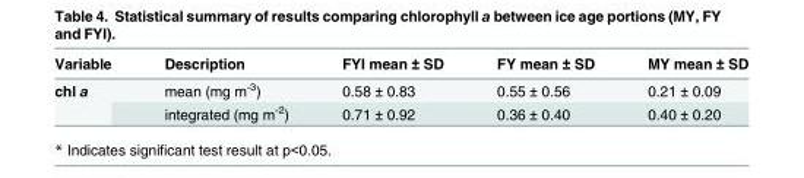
<table><thead><tr><td>Variable</td><td>Description</td><td>FYI mean ± SD</td><td>FY mean ± SD</td><td>MY mean ± SD</td></tr></thead><tbody><tr><td rowspan="2">chl a</td><td>mean (mg m<sup>-3</sup>)</td><td>0.58 ± 0.83</td><td>0.55 ± 0.56</td><td>0.21 ± 0.09</td></tr><tr><td>integrated (mg m<sup>-2</sup>)</td><td>0.71 ± 0.92</td><td>0.36 ± 0.40</td><td>0.40 ± 0.20</td></tr></tbody></table>